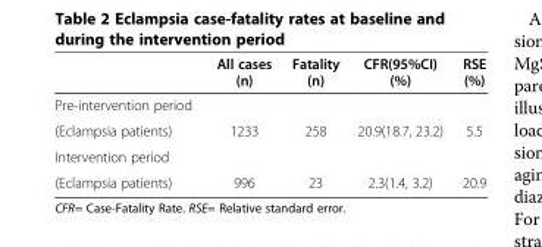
<table><thead><tr><td></td><td>All cases (n)</td><td>Fatality (n)</td><td>CFR(95%CI) (%)</td><td>RSE (%)</td></tr></thead><tbody><tr><td colspan="5">Pre-intervention period</td></tr><tr><td>(Eclampsia patients)</td><td>1233</td><td>258</td><td>20.9(18.7, 23.2)</td><td>5.5</td></tr><tr><td colspan="5">Intervention period</td></tr><tr><td>(Eclampsia patients)</td><td>996</td><td>23</td><td>2.3(1.4, 3.2)</td><td>20.9</td></tr></tbody></table>